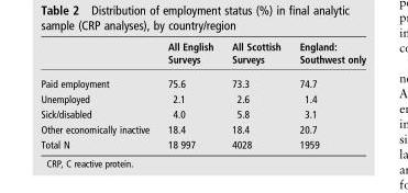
<table><thead><tr><td></td><td>All English Surveys</td><td>All Scottish Surveys</td><td>England: Southwest only</td></tr></thead><tbody><tr><td>Paid employment</td><td>75.6</td><td>73.3</td><td>74.7</td></tr><tr><td>Unemployed</td><td>2.1</td><td>2.6</td><td>1.4</td></tr><tr><td>Sick/disabled</td><td>4.0</td><td>5.8</td><td>3.1</td></tr><tr><td>Other economically inactive</td><td>18.4</td><td>18.4</td><td>20.7</td></tr><tr><td>Total N</td><td>18 997</td><td>4028</td><td>1959</td></tr></tbody></table>